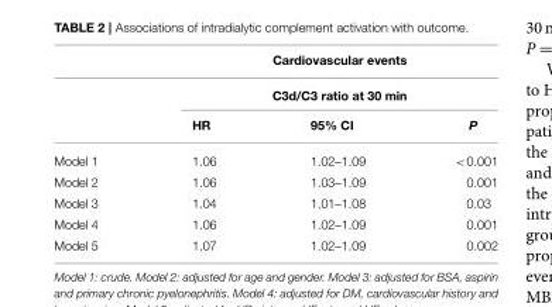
<table><thead><tr><td rowspan="3"></td><td rowspan="2" colspan="3">Cardiovascular events C3d/C3 ratio at 30 min</td></tr><tr></tr><tr><td>HR</td><td>95% CI</td><td>P</td></tr></thead><tbody><tr><td>Model 1</td><td>1.06</td><td>1.02–1.09</td><td>&lt;0.001</td></tr><tr><td>Model 2</td><td>1.06</td><td>1.03–1.09</td><td>0.001</td></tr><tr><td>Model 3</td><td>1.04</td><td>1.01–1.08</td><td>0.03</td></tr><tr><td>Model 4</td><td>1.06</td><td>1.02–1.09</td><td>0.001</td></tr><tr><td>Model 5</td><td>1.07</td><td>1.02–1.09</td><td>0.002</td></tr></tbody></table>